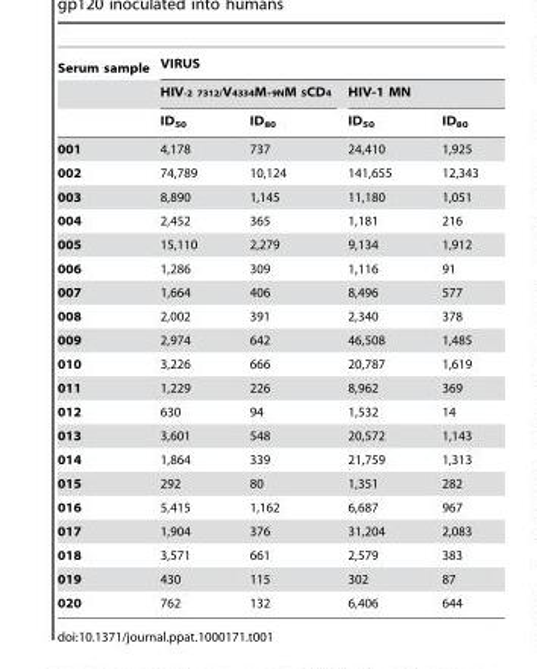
<table><thead><tr><td rowspan="3">Serum sample</td><td colspan="4">VIRUS</td></tr><tr><td colspan="2">HIV-2 7312/V4334M+9NM SCD4</td><td colspan="2">HIV-1 MN</td></tr><tr><td>ID<sub>50</sub></td><td>ID<sub>80</sub></td><td>ID<sub>50</sub></td><td>ID<sub>80</sub></td></tr></thead><tbody><tr><td>001</td><td>4,178</td><td>737</td><td>24,410</td><td>1,925</td></tr><tr><td>002</td><td>74,789</td><td>10,124</td><td>141,655</td><td>12,343</td></tr><tr><td>003</td><td>8,890</td><td>1,145</td><td>11,180</td><td>1,051</td></tr><tr><td>004</td><td>2,452</td><td>365</td><td>1,181</td><td>216</td></tr><tr><td>005</td><td>15,110</td><td>2,279</td><td>9,134</td><td>1,912</td></tr><tr><td>006</td><td>1,286</td><td>309</td><td>1,116</td><td>91</td></tr><tr><td>007</td><td>1,664</td><td>406</td><td>8,496</td><td>577</td></tr><tr><td>008</td><td>2,002</td><td>391</td><td>2,340</td><td>378</td></tr><tr><td>009</td><td>2,974</td><td>642</td><td>46,508</td><td>1,485</td></tr><tr><td>010</td><td>3,226</td><td>666</td><td>20,787</td><td>1,619</td></tr><tr><td>011</td><td>1,229</td><td>226</td><td>8,962</td><td>369</td></tr><tr><td>012</td><td>630</td><td>94</td><td>1,532</td><td>14</td></tr><tr><td>013</td><td>3,601</td><td>548</td><td>20,572</td><td>1,143</td></tr><tr><td>014</td><td>1,864</td><td>339</td><td>21,759</td><td>1,313</td></tr><tr><td>015</td><td>292</td><td>80</td><td>1,351</td><td>282</td></tr><tr><td>016</td><td>5,415</td><td>1,162</td><td>6,687</td><td>967</td></tr><tr><td>017</td><td>1,904</td><td>376</td><td>31,204</td><td>2,083</td></tr><tr><td>018</td><td>3,571</td><td>661</td><td>2,579</td><td>383</td></tr><tr><td>019</td><td>430</td><td>115</td><td>302</td><td>87</td></tr><tr><td>020</td><td>762</td><td>132</td><td>6,406</td><td>644</td></tr></tbody></table>